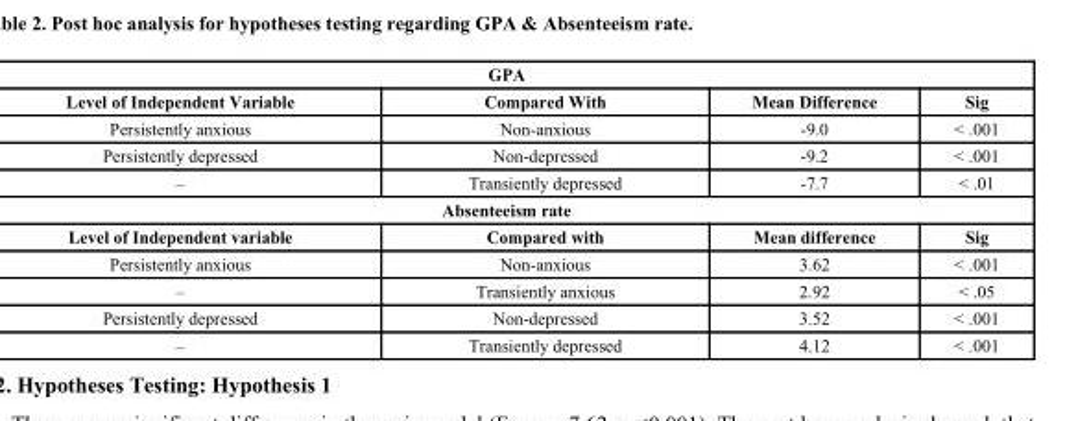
<table><thead><tr><td colspan="4">GPA</td></tr><tr><td>Level of Independent Variable</td><td>Compared With</td><td>Mean Difference</td><td>Sig</td></tr></thead><tbody><tr><td>Persistently anxious</td><td>Non-anxious</td><td>-9.0</td><td>&lt; .001</td></tr><tr><td>Persistently depressed</td><td>Non-depressed</td><td>-9.2</td><td>&lt; .001</td></tr><tr><td>–</td><td>Transiently depressed</td><td>-7.7</td><td>&lt; .01</td></tr><tr><td colspan="4">Absenteeism rate</td></tr><tr><td>Level of Independent variable</td><td>Compared with</td><td>Mean difference</td><td>Sig</td></tr><tr><td>Persistently anxious</td><td>Non-anxious</td><td>3.62</td><td>&lt; .001</td></tr><tr><td>–</td><td>Transiently anxious</td><td>2.92</td><td>&lt; .05</td></tr><tr><td>Persistently depressed</td><td>Non-depressed</td><td>3.52</td><td>&lt; .001</td></tr><tr><td>–</td><td>Transiently depressed</td><td>4.12</td><td>&lt; .001</td></tr></tbody></table>